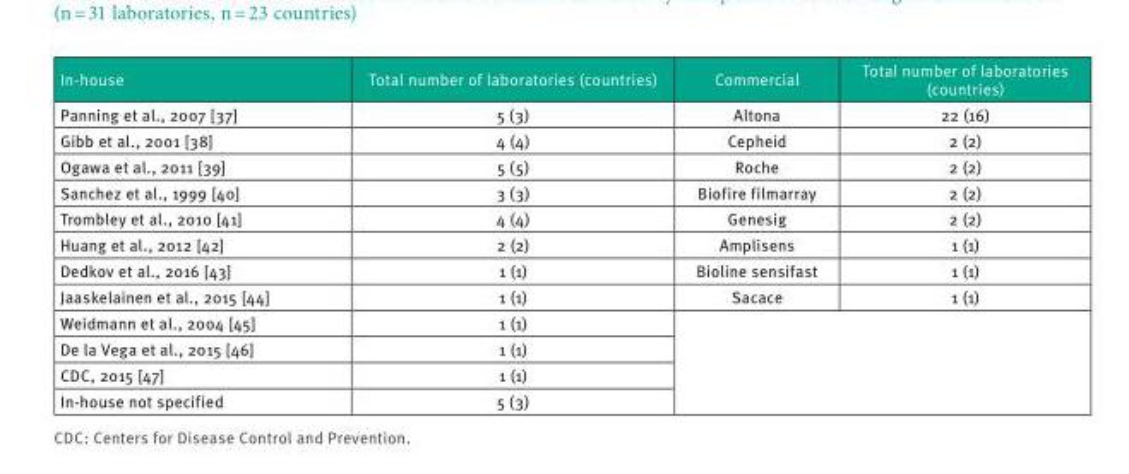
<table><thead><tr><td>In-house</td><td>Total number of laboratories (countries)</td><td>Commercial</td><td>Total number of laboratories (countries)</td></tr></thead><tbody><tr><td>Panning et al., 2007 [37]</td><td>5 (3)</td><td>Altona</td><td>22 (16)</td></tr><tr><td>Gibb et al., 2001 [38]</td><td>4 (4)</td><td>Cepheid</td><td>2 (2)</td></tr><tr><td>Ogawa et al., 2011 [39]</td><td>5 (5)</td><td>Roche</td><td>2 (2)</td></tr><tr><td>Sanchez et al., 1999 [40]</td><td>3 (3)</td><td>Biofire filmarray</td><td>2 (2)</td></tr><tr><td>Trombley et al., 2010 [41]</td><td>4 (4)</td><td>Genesig</td><td>2 (2)</td></tr><tr><td>Huang et al., 2012 [42]</td><td>2 (2)</td><td>Amplisens</td><td>1 (1)</td></tr><tr><td>Dedkov et al., 2016 [43]</td><td>1 (1)</td><td>Bioline sensifast</td><td>1 (1)</td></tr><tr><td>Jaaskelainen et al., 2015 [44]</td><td>1 (1)</td><td>Sacace</td><td>1 (1)</td></tr><tr><td>Weidmann et al., 2004 [45]</td><td>1 (1)</td><td rowspan="4" colspan="2"></td></tr><tr><td>De la Vega et al., 2015 [46]</td><td>1 (1)</td></tr><tr><td>CDC, 2015 [47]</td><td>1 (1)</td></tr><tr><td>In-house not specified</td><td>5 (3)</td></tr></tbody></table>